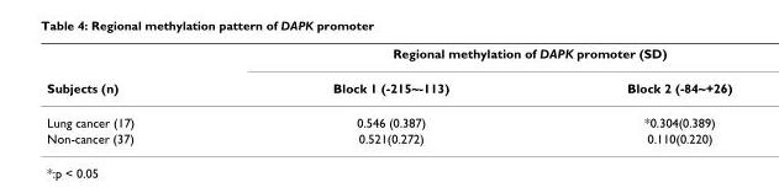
<table><thead><tr><td rowspan="2">Subjects (n)</td><td colspan="2">Regional methylation of DAPK promoter (SD)</td></tr><tr><td>Block 1 (-215~-113)</td><td>Block 2 (-84~+26)</td></tr></thead><tbody><tr><td>Lung cancer (17)</td><td>0.546 (0.387)</td><td>*0.304(0.389)</td></tr><tr><td>Non-cancer (37)</td><td>0.521(0.272)</td><td>0.110(0.220)</td></tr></tbody></table>